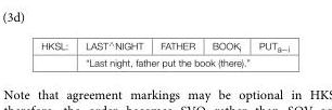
<table><tbody><tr><td rowspan="2">HKSL:</td><td>LAST<sup>∧</sup>NIGHT</td><td>FATHER</td><td>BOOK<sub>i</sub></td><td>PUT<sub>a−i</sub></td></tr><tr><td colspan="4">“Last night, father put the book (there).”</td></tr></tbody></table>